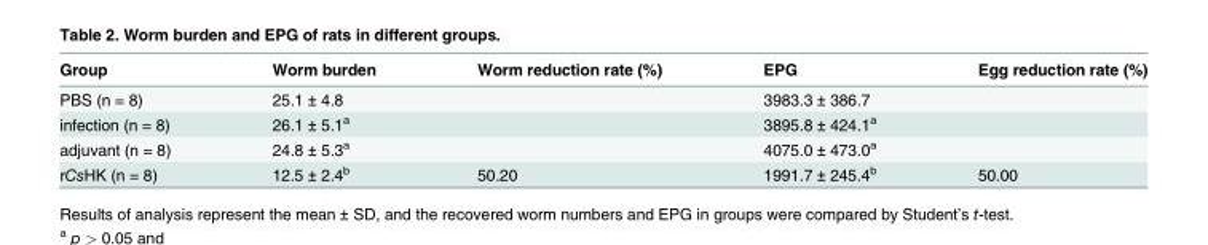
<table><thead><tr><td>Group</td><td>Worm burden</td><td>Worm reduction rate (%)</td><td>EPG</td><td>Egg reduction rate (%)</td></tr></thead><tbody><tr><td>PBS (n = 8)</td><td>25.1 ± 4.8</td><td></td><td>3983.3 ± 386.7</td><td></td></tr><tr><td>infection (n = 8)</td><td>26.1 ± 5.1<sup>a</sup></td><td></td><td>3895.8 ± 424.1<sup>a</sup></td><td></td></tr><tr><td>adjuvant (n = 8)</td><td>24.8 ± 5.3<sup>a</sup></td><td></td><td>4075.0 ± 473.0<sup>a</sup></td><td></td></tr><tr><td>rCsHK (n = 8)</td><td>12.5 ± 2.4<sup>b</sup></td><td>50.20</td><td>1991.7 ± 245.4<sup>b</sup></td><td>50.00</td></tr></tbody></table>